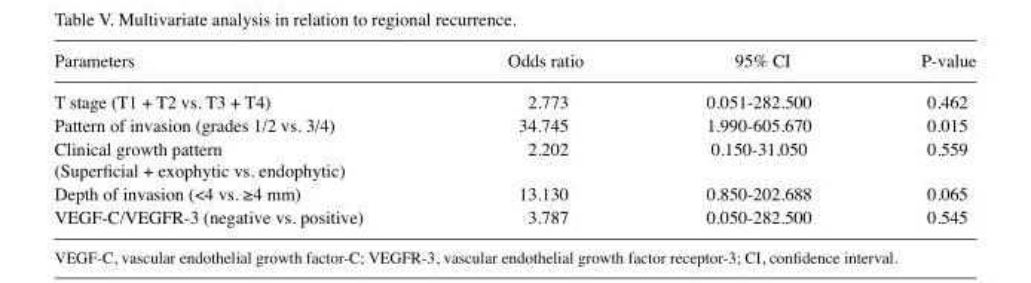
<table><thead><tr><td>Parameters</td><td>Odds ratio</td><td>95% CI</td><td>P-value</td></tr></thead><tbody><tr><td>T stage (T1 + T2 vs. T3 + T4)</td><td>2.773</td><td>0.051-282.500</td><td>0.462</td></tr><tr><td>Pattern of invasion (grades 1/2 vs. 3/4)</td><td>34.745</td><td>1.990-605.670</td><td>0.015</td></tr><tr><td>Clinical growth pattern (Superficial + exophytic vs. endophytic)</td><td>2.202</td><td>0.150-31.050</td><td>0.559</td></tr><tr><td>Depth of invasion (&lt;4 vs. ≥4 mm)</td><td>13.130</td><td>0.850‑202.688</td><td>0.065</td></tr><tr><td>VEGF-C/VEGFR-3 (negative vs. positive)</td><td>3.787</td><td>0.050-282.500</td><td>0.545</td></tr></tbody></table>